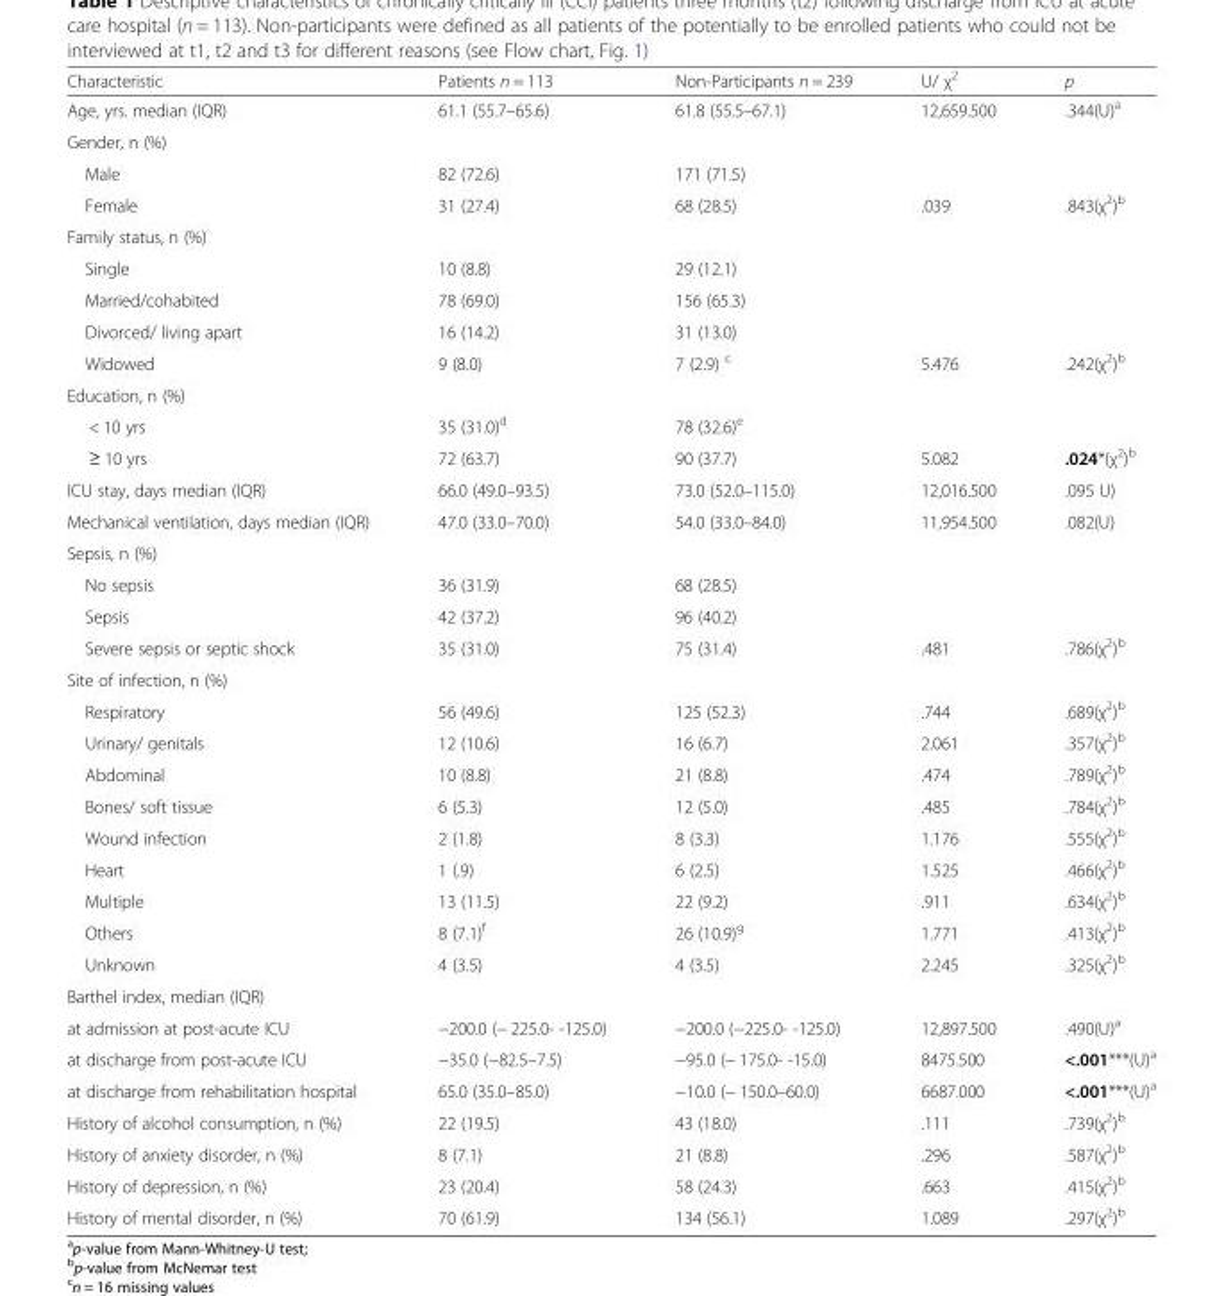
<table><thead><tr><td>Characteristic</td><td>Patients n = 113</td><td>Non-Participants n = 239</td><td>U/ χ<sup>2</sup></td><td>p</td></tr></thead><tbody><tr><td>Age, yrs. median (IQR)</td><td>61.1 (55.7–65.6)</td><td>61.8 (55.5–67.1)</td><td>12,659.500</td><td>.344(U)<sup>a</sup></td></tr><tr><td colspan="5">Gender, n (%)</td></tr><tr><td>Male</td><td>82 (72.6)</td><td>171 (71.5)</td><td></td><td></td></tr><tr><td>Female</td><td>31 (27.4)</td><td>68 (28.5)</td><td>.039</td><td>.843(χ<sup>2</sup>)<sup>b</sup></td></tr><tr><td colspan="5">Family status, n (%)</td></tr><tr><td>Single</td><td>10 (8.8)</td><td>29 (12.1)</td><td></td><td></td></tr><tr><td>Married/cohabited</td><td>78 (69.0)</td><td>156 (65.3)</td><td></td><td></td></tr><tr><td>Divorced/ living apart</td><td>16 (14.2)</td><td>31 (13.0)</td><td></td><td></td></tr><tr><td>Widowed</td><td>9 (8.0)</td><td>7 (2.9) <sup>c</sup></td><td>5.476</td><td>.242(χ<sup>2</sup>)<sup>b</sup></td></tr><tr><td colspan="5">Education, n (%)</td></tr><tr><td>&lt; 10 yrs</td><td>35 (31.0)<sup>d</sup></td><td>78 (32.6)<sup>e</sup></td><td></td><td></td></tr><tr><td>≥ 10 yrs</td><td>72 (63.7)</td><td>90 (37.7)</td><td>5.082</td><td>.024*(χ<sup>2</sup>)<sup>b</sup></td></tr><tr><td>ICU stay, days median (IQR)</td><td>66.0 (49.0–93.5)</td><td>73.0 (52.0–115.0)</td><td>12,016.500</td><td>.095 U)</td></tr><tr><td>Mechanical ventilation, days median (IQR)</td><td>47.0 (33.0–70.0)</td><td>54.0 (33.0–84.0)</td><td>11,954.500</td><td>.082(U)</td></tr><tr><td colspan="5">Sepsis, n (%)</td></tr><tr><td>No sepsis</td><td>36 (31.9)</td><td>68 (28.5)</td><td></td><td></td></tr><tr><td>Sepsis</td><td>42 (37.2)</td><td>96 (40.2)</td><td></td><td></td></tr><tr><td>Severe sepsis or septic shock</td><td>35 (31.0)</td><td>75 (31.4)</td><td>.481</td><td>.786(χ<sup>2</sup>)<sup>b</sup></td></tr><tr><td colspan="5">Site of infection, n (%)</td></tr><tr><td>Respiratory</td><td>56 (49.6)</td><td>125 (52.3)</td><td>.744</td><td>.689(χ<sup>2</sup>)<sup>b</sup></td></tr><tr><td>Urinary/ genitals</td><td>12 (10.6)</td><td>16 (6.7)</td><td>2.061</td><td>.357(χ<sup>2</sup>)<sup>b</sup></td></tr><tr><td>Abdominal</td><td>10 (8.8)</td><td>21 (8.8)</td><td>.474</td><td>.789(χ<sup>2</sup>)<sup>b</sup></td></tr><tr><td>Bones/ soft tissue</td><td>6 (5.3)</td><td>12 (5.0)</td><td>.485</td><td>.784(χ<sup>2</sup>)<sup>b</sup></td></tr><tr><td>Wound infection</td><td>2 (1.8)</td><td>8 (3.3)</td><td>1.176</td><td>.555(χ<sup>2</sup>)<sup>b</sup></td></tr><tr><td>Heart</td><td>1 (.9)</td><td>6 (2.5)</td><td>1.525</td><td>.466(χ<sup>2</sup>)<sup>b</sup></td></tr><tr><td>Multiple</td><td>13 (11.5)</td><td>22 (9.2)</td><td>.911</td><td>.634(χ<sup>2</sup>)<sup>b</sup></td></tr><tr><td>Others</td><td>8 (7.1)<sup>f</sup></td><td>26 (10.9)<sup>g</sup></td><td>1.771</td><td>.413(χ<sup>2</sup>)<sup>b</sup></td></tr><tr><td>Unknown</td><td>4 (3.5)</td><td>4 (3.5)</td><td>2.245</td><td>.325(χ<sup>2</sup>)<sup>b</sup></td></tr><tr><td colspan="5">Barthel index, median (IQR)</td></tr><tr><td>at admission at post-acute ICU</td><td>−200.0 (− 225.0- -125.0)</td><td>−200.0 (−225.0- -125.0)</td><td>12,897.500</td><td>.490(U)<sup>a</sup></td></tr><tr><td>at discharge from post-acute ICU</td><td>−35.0 (−82.5–7.5)</td><td>−95.0 (− 175.0- -15.0)</td><td>8475.500</td><td>&lt;.001***(U)<sup>a</sup></td></tr><tr><td>at discharge from rehabilitation hospital</td><td>65.0 (35.0–85.0)</td><td>−10.0 (− 150.0–60.0)</td><td>6687.000</td><td>&lt;.001***(U)<sup>a</sup></td></tr><tr><td>History of alcohol consumption, n (%)</td><td>22 (19.5)</td><td>43 (18.0)</td><td>.111</td><td>.739(χ<sup>2</sup>)<sup>b</sup></td></tr><tr><td>History of anxiety disorder, n (%)</td><td>8 (7.1)</td><td>21 (8.8)</td><td>.296</td><td>.587(χ<sup>2</sup>)<sup>b</sup></td></tr><tr><td>History of depression, n (%)</td><td>23 (20.4)</td><td>58 (24.3)</td><td>.663</td><td>.415(χ<sup>2</sup>)<sup>b</sup></td></tr><tr><td>History of mental disorder, n (%)</td><td>70 (61.9)</td><td>134 (56.1)</td><td>1.089</td><td>.297(χ<sup>2</sup>)<sup>b</sup></td></tr></tbody></table>